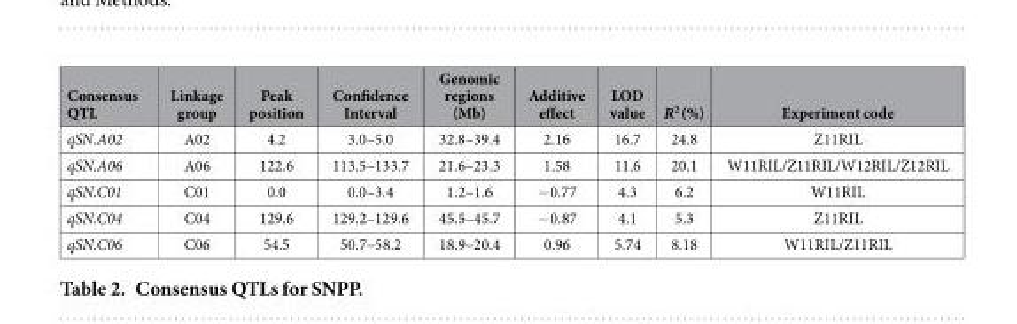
<table><thead><tr><td>Consensus QTL</td><td>Linkage group</td><td>Peak position</td><td>Confidence Interval</td><td>Genomic regions (Mb)</td><td>Additive effect</td><td>LOD value</td><td>R<sup>2</sup> (%)</td><td>Experiment code</td></tr></thead><tbody><tr><td>qSN.A02</td><td>A02</td><td>4.2</td><td>3.0–5.0</td><td>32.8–39.4</td><td>2.16</td><td>16.7</td><td>24.8</td><td>Z11RIL</td></tr><tr><td>qSN.A06</td><td>A06</td><td>122.6</td><td>113.5–133.7</td><td>21.6–23.3</td><td>1.58</td><td>11.6</td><td>20.1</td><td>W11RIL/Z11RIL/W12RIL/Z12RIL</td></tr><tr><td>qSN.C01</td><td>C01</td><td>0.0</td><td>0.0–3.4</td><td>1.2–1.6</td><td>− 0.77</td><td>4.3</td><td>6.2</td><td>W11RIL</td></tr><tr><td>qSN.C04</td><td>C04</td><td>129.6</td><td>129.2–129.6</td><td>45.5–45.7</td><td>− 0.87</td><td>4.1</td><td>5.3</td><td>Z11RIL</td></tr><tr><td>qSN.C06</td><td>C06</td><td>54.5</td><td>50.7–58.2</td><td>18.9–20.4</td><td>0.96</td><td>5.74</td><td>8.18</td><td>W11RIL/Z11RIL</td></tr></tbody></table>